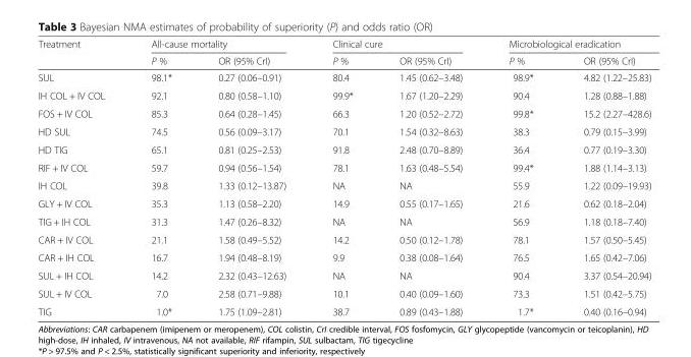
<table><thead><tr><td rowspan="2">Treatment</td><td colspan="2">All-cause mortality</td><td colspan="2">Clinical cure</td><td colspan="2">Microbiological eradication</td></tr><tr><td>P %</td><td>OR (95% CrI)</td><td>P %</td><td>OR (95% CrI)</td><td>P %</td><td>OR (95% CrI)</td></tr></thead><tbody><tr><td>SUL</td><td>98.1*</td><td>0.27 (0.06–0.91)</td><td>80.4</td><td>1.45 (0.62–3.48)</td><td>98.9*</td><td>4.82 (1.22–25.83)</td></tr><tr><td>IH COL + IV COL</td><td>92.1</td><td>0.80 (0.58–1.10)</td><td>99.9*</td><td>1.67 (1.20–2.29)</td><td>90.4</td><td>1.28 (0.88–1.88)</td></tr><tr><td>FOS + IV COL</td><td>85.3</td><td>0.64 (0.28–1.45)</td><td>66.3</td><td>1.20 (0.52–2.72)</td><td>99.8*</td><td>15.2 (2.27–428.6)</td></tr><tr><td>HD SUL</td><td>74.5</td><td>0.56 (0.09–3.17)</td><td>70.1</td><td>1.54 (0.32–8.63)</td><td>38.3</td><td>0.79 (0.15–3.99)</td></tr><tr><td>HD TIG</td><td>65.1</td><td>0.81 (0.25–2.53)</td><td>91.8</td><td>2.48 (0.70–8.89)</td><td>36.4</td><td>0.77 (0.19–3.30)</td></tr><tr><td>RIF + IV COL</td><td>59.7</td><td>0.94 (0.56–1.54)</td><td>78.1</td><td>1.63 (0.48–5.54)</td><td>99.4*</td><td>1.88 (1.14–3.13)</td></tr><tr><td>IH COL</td><td>39.8</td><td>1.33 (0.12–13.87)</td><td>NA</td><td>NA</td><td>55.9</td><td>1.22 (0.09–19.93)</td></tr><tr><td>GLY + IV COL</td><td>35.3</td><td>1.13 (0.58–2.20)</td><td>14.9</td><td>0.55 (0.17–1.65)</td><td>21.6</td><td>0.62 (0.18–2.04)</td></tr><tr><td>TIG + IH COL</td><td>31.3</td><td>1.47 (0.26–8.32)</td><td>NA</td><td>NA</td><td>56.9</td><td>1.18 (0.18–7.40)</td></tr><tr><td>CAR + IV COL</td><td>21.1</td><td>1.58 (0.49–5.52)</td><td>14.2</td><td>0.50 (0.12–1.78)</td><td>78.1</td><td>1.57 (0.50–5.45)</td></tr><tr><td>CAR + IH COL</td><td>16.7</td><td>1.94 (0.48–8.19)</td><td>9.9</td><td>0.38 (0.08–1.64)</td><td>76.5</td><td>1.65 (0.42–7.06)</td></tr><tr><td>SUL + IH COL</td><td>14.2</td><td>2.32 (0.43–12.63)</td><td>NA</td><td>NA</td><td>90.4</td><td>3.37 (0.54–20.94)</td></tr><tr><td>SUL + IV COL</td><td>7.0</td><td>2.58 (0.71–9.88)</td><td>10.1</td><td>0.40 (0.09–1.60)</td><td>73.3</td><td>1.51 (0.42–5.75)</td></tr><tr><td>TIG</td><td>1.0*</td><td>1.75 (1.09–2.81)</td><td>38.7</td><td>0.89 (0.43–1.88)</td><td>1.7*</td><td>0.40 (0.16–0.94)</td></tr></tbody></table>